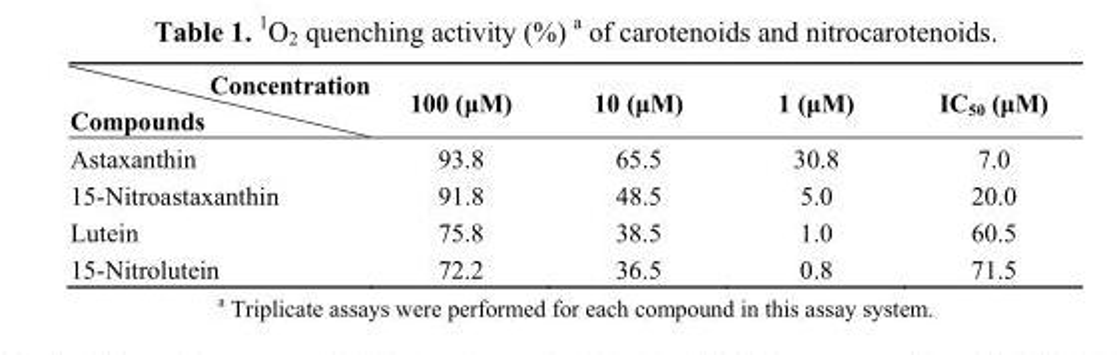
<table><thead><tr><td>Concentration Compounds</td><td>100 (μM)</td><td>10 (μM)</td><td>1 (μM)</td><td>IC<sub>50</sub> (μM)</td></tr></thead><tbody><tr><td>Astaxanthin</td><td>93.8</td><td>65.5</td><td>30.8</td><td>7.0</td></tr><tr><td>15-Nitroastaxanthin</td><td>91.8</td><td>48.5</td><td>5.0</td><td>20.0</td></tr><tr><td>Lutein</td><td>75.8</td><td>38.5</td><td>1.0</td><td>60.5</td></tr><tr><td>15-Nitrolutein</td><td>72.2</td><td>36.5</td><td>0.8</td><td>71.5</td></tr></tbody></table>